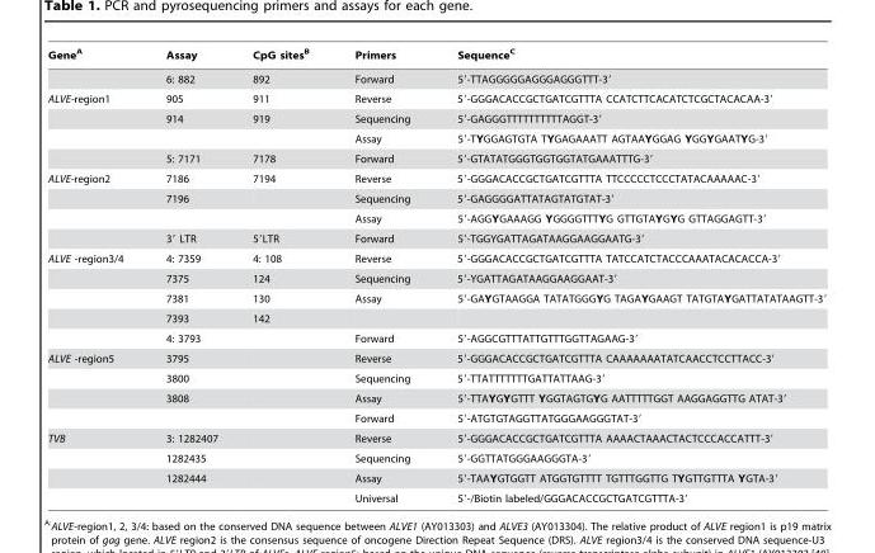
<table><thead><tr><td>Gene<sup>A</sup></td><td>Assay</td><td>CpG sites<sup>B</sup></td><td>Primers</td><td>Sequence<sup>C</sup></td></tr></thead><tbody><tr><td></td><td>6: 882</td><td>892</td><td>Forward</td><td>5′-TTAGGGGGAGGGAGGGTTT-3′</td></tr><tr><td rowspan="4">ALVE-region1</td><td>905</td><td>911</td><td>Reverse</td><td>5′-GGGACACCGCTGATCGTTTA CCATCTTCACATCTCGCTACACAA-3′</td></tr><tr><td>914</td><td>919</td><td>Sequencing</td><td>5′-GAGGGTTTTTTTTTTAGGT-3′</td></tr><tr><td colspan="2"></td><td>Assay</td><td>5′-TYGGAGTGTA TYGAGAAATT AGTAAYGGAG YGGYGAATYG-3′</td></tr><tr><td>5: 7171</td><td>7178</td><td>Forward</td><td>5′-GTATATGGGTGGTGGTATGAAATTTG-3′</td></tr><tr><td rowspan="4">ALVE-region2</td><td>7186</td><td>7194</td><td>Reverse</td><td>5′-GGGACACCGCTGATCGTTTA TTCCCCCTCCCTATACAAAAAC-3′</td></tr><tr><td>7196</td><td></td><td>Sequencing</td><td>5′-GAGGGGATTATAGTATGTAT-3′</td></tr><tr><td colspan="2"></td><td>Assay</td><td>5′-AGGYGAAAGG YGGGGTTTYG GTTGTAYGYG GTTAGGAGTT-3′</td></tr><tr><td>3′ LTR</td><td>5′LTR</td><td>Forward</td><td>5′-TGGYGATTAGATAAGGAAGGAATG-3′</td></tr><tr><td rowspan="5">ALVE -region3/4</td><td>4: 7359</td><td>4: 108</td><td>Reverse</td><td>5′-GGGACACCGCTGATCGTTTA TATCCATCTACCCAAATACACACCA-3′</td></tr><tr><td>7375</td><td>124</td><td>Sequencing</td><td>5′-YGATTAGATAAGGAAGGAAT-3′</td></tr><tr><td>7381</td><td>130</td><td>Assay</td><td>5′-GAYGTAAGGA TATATGGGYG TAGAYGAAGT TATGTAYGATTATATAAGTT-3′</td></tr><tr><td>7393</td><td>142</td><td></td><td></td></tr><tr><td>4: 3793</td><td></td><td>Forward</td><td>5′-AGGCGTTTATTGTTTGGTTAGAAG-3′</td></tr><tr><td rowspan="4">ALVE -region5</td><td>3795</td><td></td><td>Reverse</td><td>5′-GGGACACCGCTGATCGTTTA CAAAAAAATATCAACCTCCTTACC-3′</td></tr><tr><td>3800</td><td></td><td>Sequencing</td><td>5′-TTATTTTTTTGATTATTAAG-3′</td></tr><tr><td>3808</td><td></td><td>Assay</td><td>5′-TTAYGYGTTT YGGTAGTGYG AATTTTTGGT AAGGAGGTTG ATAT-3′</td></tr><tr><td colspan="2"></td><td>Forward</td><td>5′-ATGTGTAGGTTATGGGAAGGGTAT-3′</td></tr><tr><td rowspan="4">TVB</td><td>3: 1282407</td><td></td><td>Reverse</td><td>5′-GGGACACCGCTGATCGTTTA AAAACTAAACTACTCCCACCATTT-3′</td></tr><tr><td>1282435</td><td></td><td>Sequencing</td><td>5′-GGTTATGGGAAGGGTA-3′</td></tr><tr><td>1282444</td><td></td><td>Assay</td><td>5′-TAAYGTGGTT ATGGTGTTTT TGTTTGGTTG TYGTTGTTTA YGTA-3′</td></tr><tr><td colspan="2"></td><td>Universal</td><td>5′-/Biotin labeled/GGGACACCGCTGATCGTTTA-3′</td></tr></tbody></table>